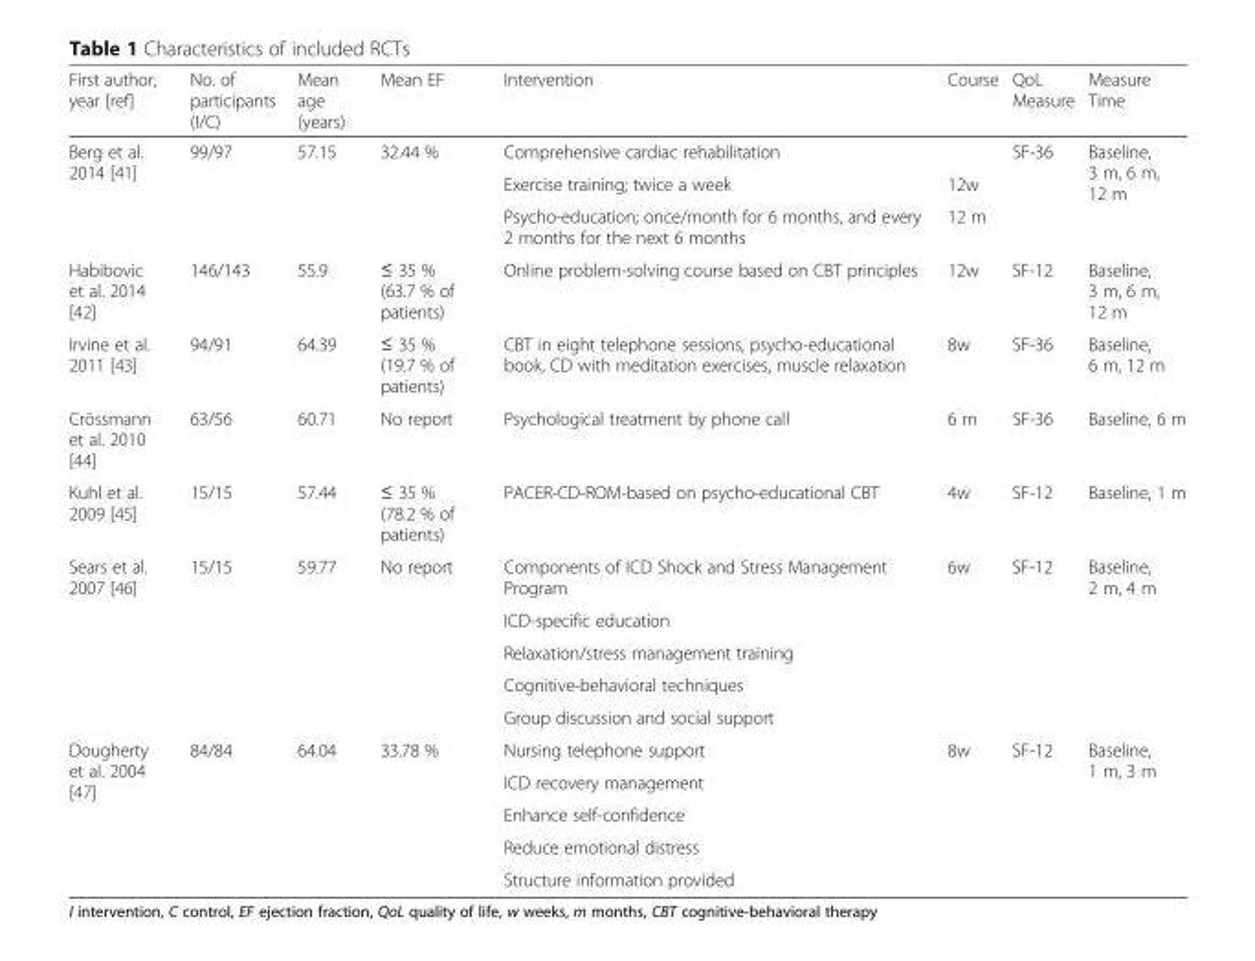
<table><thead><tr><td>First author, year [ref]</td><td>No. of participants (I/C)</td><td>Mean age (years)</td><td>Mean EF</td><td>Intervention</td><td>Course</td><td>QoL Measure</td><td>Measure Time</td></tr></thead><tbody><tr><td rowspan="3">Berg et al. 2014 [41]</td><td rowspan="3">99/97</td><td rowspan="3">57.15</td><td rowspan="3">32.44 %</td><td>Comprehensive cardiac rehabilitation</td><td></td><td rowspan="3">SF-36</td><td rowspan="3">Baseline, 3 m, 6 m, 12 m</td></tr><tr><td>Exercise training; twice a week</td><td>12w</td></tr><tr><td>Psycho-education; once/month for 6 months, and every 2 months for the next 6 months</td><td>12 m</td></tr><tr><td>Habibovic et al. 2014 [42]</td><td>146/143</td><td>55.9</td><td>≤ 35 % (63.7 % of patients)</td><td>Online problem-solving course based on CBT principles</td><td>12w</td><td>SF-12</td><td>Baseline, 3 m, 6 m, 12 m</td></tr><tr><td>Irvine et al. 2011 [43]</td><td>94/91</td><td>64.39</td><td>≤ 35 % (19.7 % of patients)</td><td>CBT in eight telephone sessions, psycho-educational book, CD with meditation exercises, muscle relaxation</td><td>8w</td><td>SF-36</td><td>Baseline, 6 m, 12 m</td></tr><tr><td>Crössmann et al. 2010 [44]</td><td>63/56</td><td>60.71</td><td>No report</td><td>Psychological treatment by phone call</td><td>6 m</td><td>SF-36</td><td>Baseline, 6 m</td></tr><tr><td>Kuhl et al. 2009 [45]</td><td>15/15</td><td>57.44</td><td>≤ 35 % (78.2 % of patients)</td><td>PACER-CD-ROM-based on psycho-educational CBT</td><td>4w</td><td>SF-12</td><td>Baseline, 1 m</td></tr><tr><td rowspan="5">Sears et al. 2007 [46]</td><td rowspan="5">15/15</td><td rowspan="5">59.77</td><td rowspan="5">No report</td><td>Components of ICD Shock and Stress Management Program</td><td rowspan="5">6w</td><td rowspan="5">SF-12</td><td rowspan="5">Baseline, 2 m, 4 m</td></tr><tr><td>ICD-specific education</td></tr><tr><td>Relaxation/stress management training</td></tr><tr><td>Cognitive-behavioral techniques</td></tr><tr><td>Group discussion and social support</td></tr><tr><td rowspan="5">Dougherty et al. 2004 [47]</td><td rowspan="5">84/84</td><td rowspan="5">64.04</td><td rowspan="5">33.78 %</td><td>Nursing telephone support</td><td rowspan="5">8w</td><td rowspan="5">SF-12</td><td rowspan="5">Baseline, 1 m, 3 m</td></tr><tr><td>ICD recovery management</td></tr><tr><td>Enhance self-confidence</td></tr><tr><td>Reduce emotional distress</td></tr><tr><td>Structure information provided</td></tr></tbody></table>